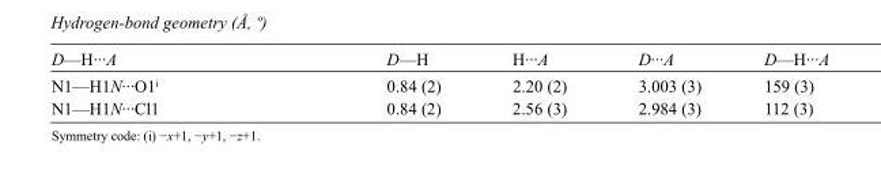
<table><tbody><tr><td>D—H···A</td><td>D—H</td><td>H···A</td><td>D···A</td><td>D—H···A</td></tr><tr><td>N1—H1N···O1<sup>i</sup></td><td>0.84 (2)</td><td>2.20 (2)</td><td>3.003 (3)</td><td>159 (3)</td></tr><tr><td>N1—H1N···Cl1</td><td>0.84 (2)</td><td>2.56 (3)</td><td>2.984 (3)</td><td>112 (3)</td></tr></tbody></table>